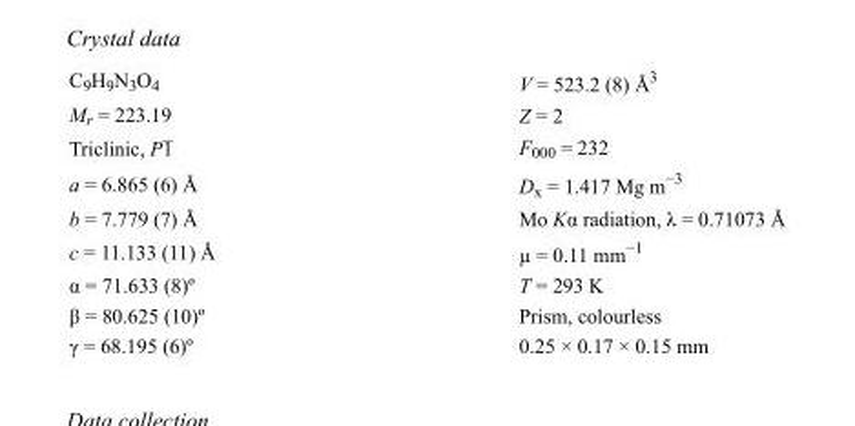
<table><tbody><tr><td>C<sub>9</sub>H<sub>9</sub>N<sub>3</sub>O<sub>4</sub></td><td>V = 523.2 (8) Å<sup>3</sup></td></tr><tr><td>M<sub>r</sub> = 223.19</td><td>Z = 2</td></tr><tr><td>Triclinic, P1</td><td>F000 = 232</td></tr><tr><td>a = 6.865 (6) Å</td><td>D<sub>x</sub> = 1.417 Mg m<sup>−3</sup></td></tr><tr><td>b = 7.779 (7) Å</td><td>Mo Kα radiation, λ = 0.71073 Å</td></tr><tr><td>c = 11.133 (11) Å</td><td>µ = 0.11 mm<sup>−1</sup></td></tr><tr><td>α = 71.633 (8)º</td><td>T = 293 K</td></tr><tr><td>β = 80.625 (10)º</td><td>Prism, colourless</td></tr><tr><td>γ = 68.195 (6)º</td><td>0.25 × 0.17 × 0.15 mm</td></tr></tbody></table>